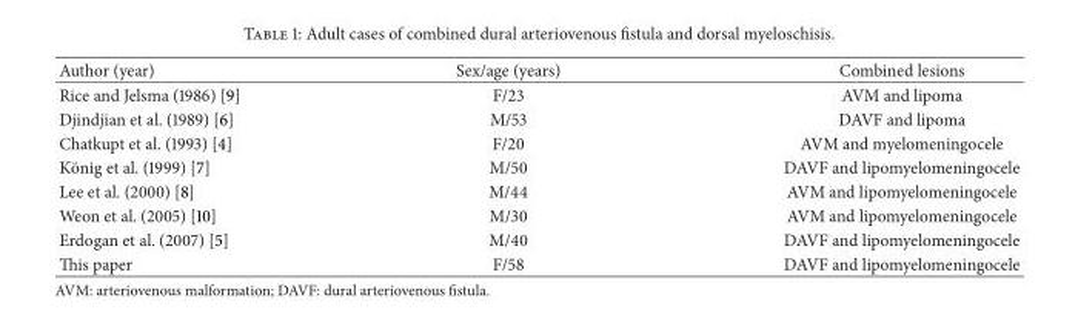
<table><thead><tr><td>Author (year)</td><td>Sex/age (years)</td><td>Combined lesions</td></tr></thead><tbody><tr><td>Rice and Jelsma (1986) [9]</td><td>F/23</td><td>AVM and lipoma</td></tr><tr><td>Djindjian et al. (1989) [6]</td><td>M/53</td><td>DAVF and lipoma</td></tr><tr><td>Chatkupt et al. (1993) [4]</td><td>F/20</td><td>AVM and myelomeningocele</td></tr><tr><td>K¨onig et al. (1999) [7]</td><td>M/50</td><td>DAVF and lipomyelomeningocele</td></tr><tr><td>Lee et al. (2000) [8]</td><td>M/44</td><td>AVM and lipomyelomeningocele</td></tr><tr><td>Weon et al. (2005) [10]</td><td>M/30</td><td>AVM and lipomyelomeningocele</td></tr><tr><td>Erdogan et al. (2007) [5]</td><td>M/40</td><td>DAVF and lipomyelomeningocele</td></tr><tr><td>This paper</td><td>F/58</td><td>DAVF and lipomyelomeningocele</td></tr></tbody></table>